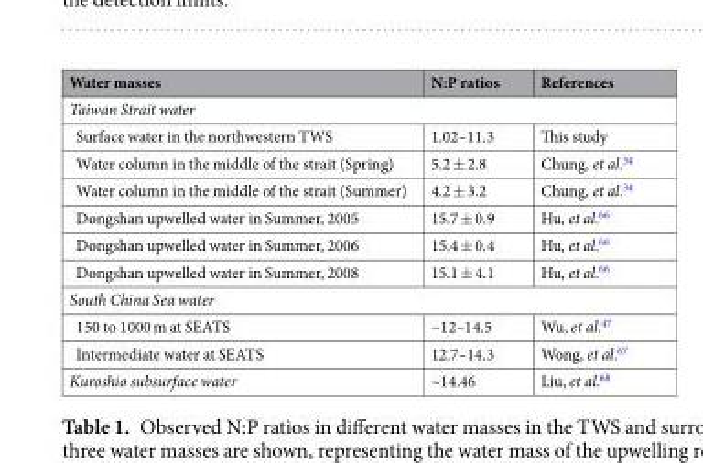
<table><thead><tr><td>Water masses</td><td>N:P ratios</td><td>References</td></tr></thead><tbody><tr><td colspan="3">Taiwan Strait water</td></tr><tr><td>Surface water in the northwestern TWS</td><td>1.02–11.3</td><td>This study</td></tr><tr><td>Water column in the middle of the strait (Spring)</td><td>5.2 ± 2.8</td><td>Chung, et al.<sup>34</sup></td></tr><tr><td>Water column in the middle of the strait (Summer)</td><td>4.2 ± 3.2</td><td>Chung, et al.<sup>34</sup></td></tr><tr><td>Dongshan upwelled water in Summer, 2005</td><td>15.7 ± 0.9</td><td>Hu, et al.<sup>66</sup></td></tr><tr><td>Dongshan upwelled water in Summer, 2006</td><td>15.4 ± 0.4</td><td>Hu, et al.<sup>66</sup></td></tr><tr><td>Dongshan upwelled water in Summer, 2008</td><td>15.1 ± 4.1</td><td>Hu, et al.<sup>66</sup></td></tr><tr><td colspan="3">South China Sea water</td></tr><tr><td>150 to 1000 m at SEATS</td><td>~12–14.5</td><td>Wu, et al.<sup>47</sup></td></tr><tr><td>Intermediate water at SEATS</td><td>12.7–14.3</td><td>Wong, et al.<sup>67</sup></td></tr><tr><td>Kuroshio subsurface water</td><td>~14.46</td><td>Liu, et al.<sup>68</sup></td></tr></tbody></table>